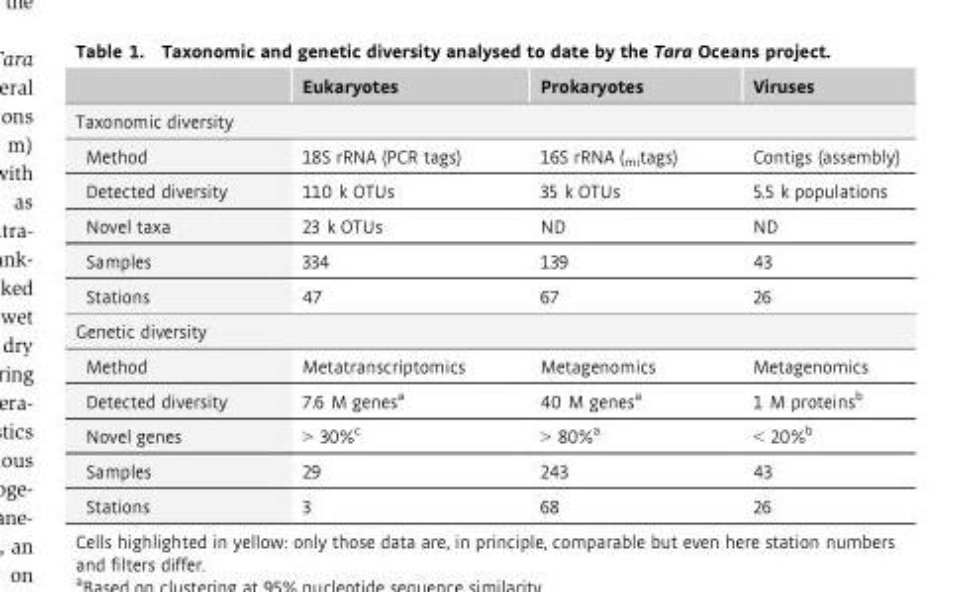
<table><thead><tr><td></td><td>Eukaryotes</td><td>Prokaryotes</td><td>Viruses</td></tr></thead><tbody><tr><td colspan="4">Taxonomic diversity</td></tr><tr><td>Method</td><td>18S rRNA (PCR tags)</td><td>16S rRNA (<sub>mi</sub>tags)</td><td>Contigs (assembly)</td></tr><tr><td>Detected diversity</td><td>110 k OTUs</td><td>35 k OTUs</td><td>5.5 k populations</td></tr><tr><td>Novel taxa</td><td>23 k OTUs</td><td>ND</td><td>ND</td></tr><tr><td>Samples</td><td>334</td><td>139</td><td>43</td></tr><tr><td>Stations</td><td>47</td><td>67</td><td>26</td></tr><tr><td colspan="4">Genetic diversity</td></tr><tr><td>Method</td><td>Metatranscriptomics</td><td>Metagenomics</td><td>Metagenomics</td></tr><tr><td>Detected diversity</td><td>7.6 M genes<sup>a</sup></td><td>40 M genes<sup>a</sup></td><td>1 M proteins<sup>b</sup></td></tr><tr><td>Novel genes</td><td>&gt; 30%<sup>c</sup></td><td>&gt; 80%<sup>a</sup></td><td>&lt; 20%<sup>b</sup></td></tr><tr><td>Samples</td><td>29</td><td>243</td><td>43</td></tr><tr><td>Stations</td><td>3</td><td>68</td><td>26</td></tr></tbody></table>